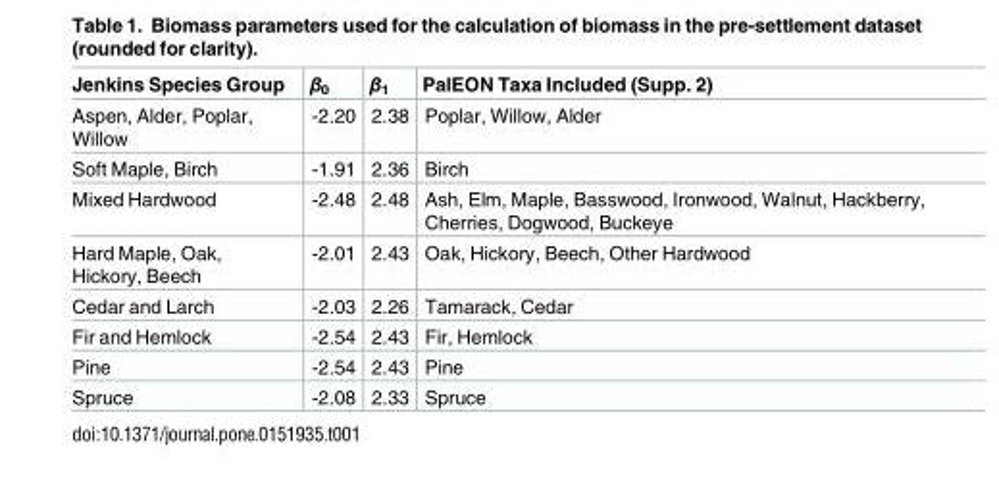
<table><thead><tr><td>Jenkins Species Group</td><td>β<sub>0</sub></td><td>β<sub>1</sub></td><td>PalEON Taxa Included (Supp. 2)</td></tr></thead><tbody><tr><td>Aspen, Alder, Poplar, Willow</td><td>-2.20</td><td>2.38</td><td>Poplar, Willow, Alder</td></tr><tr><td>Soft Maple, Birch</td><td>-1.91</td><td>2.36</td><td>Birch</td></tr><tr><td>Mixed Hardwood</td><td>-2.48</td><td>2.48</td><td>Ash, Elm, Maple, Basswood, Ironwood, Walnut, Hackberry, Cherries, Dogwood, Buckeye</td></tr><tr><td>Hard Maple, Oak, Hickory, Beech</td><td>-2.01</td><td>2.43</td><td>Oak, Hickory, Beech, Other Hardwood</td></tr><tr><td>Cedar and Larch</td><td>-2.03</td><td>2.26</td><td>Tamarack, Cedar</td></tr><tr><td>Fir and Hemlock</td><td>-2.54</td><td>2.43</td><td>Fir, Hemlock</td></tr><tr><td>Pine</td><td>-2.54</td><td>2.43</td><td>Pine</td></tr><tr><td>Spruce</td><td>-2.08</td><td>2.33</td><td>Spruce</td></tr></tbody></table>